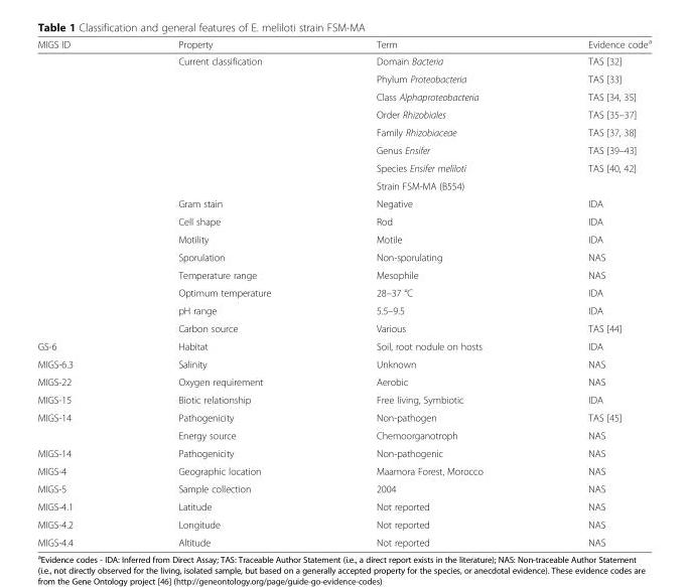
<table><thead><tr><td>MIGS ID</td><td>Property</td><td>Term</td><td>Evidence code<sup>a</sup></td></tr></thead><tbody><tr><td></td><td>Current classification</td><td>Domain Bacteria</td><td>TAS [32]</td></tr><tr><td></td><td></td><td>Phylum Proteobacteria</td><td>TAS [33]</td></tr><tr><td></td><td></td><td>Class Alphaproteobacteria</td><td>TAS [34, 35]</td></tr><tr><td></td><td></td><td>Order Rhizobiales</td><td>TAS [35–37]</td></tr><tr><td></td><td></td><td>Family Rhizobiaceae</td><td>TAS [37, 38]</td></tr><tr><td></td><td></td><td>Genus Ensifer</td><td>TAS [39–43]</td></tr><tr><td></td><td></td><td>Species Ensifer meliloti</td><td>TAS [40, 42]</td></tr><tr><td></td><td></td><td>Strain FSM-MA (B554)</td><td></td></tr><tr><td></td><td>Gram stain</td><td>Negative</td><td>IDA</td></tr><tr><td></td><td>Cell shape</td><td>Rod</td><td>IDA</td></tr><tr><td></td><td>Motility</td><td>Motile</td><td>IDA</td></tr><tr><td></td><td>Sporulation</td><td>Non-sporulating</td><td>NAS</td></tr><tr><td></td><td>Temperature range</td><td>Mesophile</td><td>NAS</td></tr><tr><td></td><td>Optimum temperature</td><td>28–37 °C</td><td>IDA</td></tr><tr><td></td><td>pH range</td><td>5.5–9.5</td><td>IDA</td></tr><tr><td></td><td>Carbon source</td><td>Various</td><td>TAS [44]</td></tr><tr><td>GS-6</td><td>Habitat</td><td>Soil, root nodule on hosts</td><td>IDA</td></tr><tr><td>MIGS-6.3</td><td>Salinity</td><td>Unknown</td><td>NAS</td></tr><tr><td>MIGS-22</td><td>Oxygen requirement</td><td>Aerobic</td><td>NAS</td></tr><tr><td>MIGS-15</td><td>Biotic relationship</td><td>Free living, Symbiotic</td><td>IDA</td></tr><tr><td rowspan="2">MIGS-14</td><td>Pathogenicity</td><td>Non-pathogen</td><td>TAS [45]</td></tr><tr><td>Energy source</td><td>Chemoorganotroph</td><td>NAS</td></tr><tr><td>MIGS-14</td><td>Pathogenicity</td><td>Non-pathogenic</td><td>NAS</td></tr><tr><td>MIGS-4</td><td>Geographic location</td><td>Maamora Forest, Morocco</td><td>NAS</td></tr><tr><td>MIGS-5</td><td>Sample collection</td><td>2004</td><td>NAS</td></tr><tr><td>MIGS-4.1</td><td>Latitude</td><td>Not reported</td><td>NAS</td></tr><tr><td>MIGS-4.2</td><td>Longitude</td><td>Not reported</td><td>NAS</td></tr><tr><td>MIGS-4.4</td><td>Altitude</td><td>Not reported</td><td>NAS</td></tr></tbody></table>